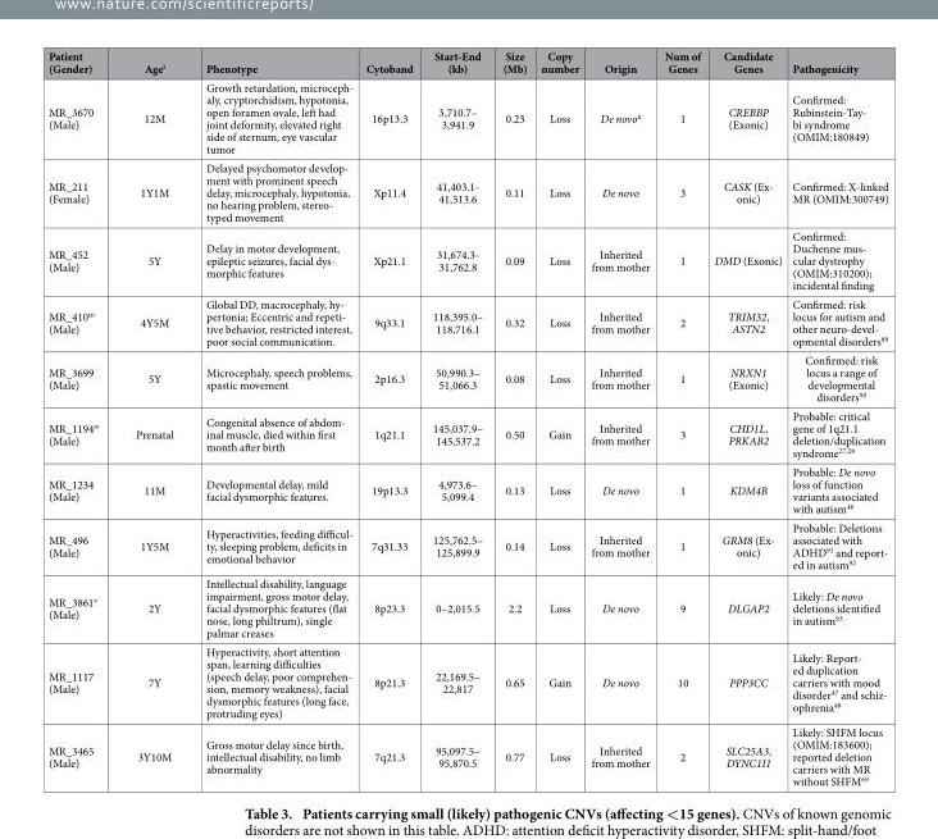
<table><thead><tr><td>Patient (Gender)</td><td>Age<sup>i</sup></td><td>Phenotype</td><td>Cytoband</td><td>Start-End (kb)</td><td>Size (Mb)</td><td>Copy number</td><td>Origin</td><td>Num of Genes</td><td>Candidate Genes</td><td>Pathogenicity</td></tr></thead><tbody><tr><td>MR_3670 (Male)</td><td>12M</td><td>Growth retardation, microceph- aly, cryptorchidism, hypotonia, open foramen ovale, left had joint deformity, elevated right side of sternum, eye vascular tumor</td><td>16p13.3</td><td>3,710.7– 3,941.9</td><td>0.23</td><td>Loss</td><td>De novo<sup>ii</sup></td><td>1</td><td>CREBBP (Exonic)</td><td>Confirmed: Rubinstein-Tay- bi syndrome (OMIM:180849)</td></tr><tr><td>MR_211 (Female)</td><td>1Y1M</td><td>Delayed psychomotor develop- ment with prominent speech delay, microcephaly, hypotonia, no hearing problem, stereo- typed movement</td><td>Xp11.4</td><td>41,403.1- 41,513.6</td><td>0.11</td><td>Loss</td><td>De novo</td><td>3</td><td>CASK (Ex- onic)</td><td>Confirmed: X-linked MR (OMIM:300749)</td></tr><tr><td>MR_452 (Male)</td><td>5Y</td><td>Delay in motor development, epileptic seizures, facial dys- morphic features</td><td>Xp21.1</td><td>31,674.3- 31,762.8</td><td>0.09</td><td>Loss</td><td>Inherited from mother</td><td>1</td><td>DMD (Exonic)</td><td>Confirmed: Duchenne mus- cular dystrophy (OMIM:310200); incidental finding</td></tr><tr><td>MR_410iii (Male)</td><td>4Y5M</td><td>Global DD, macrocephaly, hy- pertonia; Eccentric and repeti- tive behavior, restricted interest, poor social communication.</td><td>9q33.1</td><td>118,395.0– 118,716.1</td><td>0.32</td><td>Loss</td><td>Inherited from mother</td><td>2</td><td>TRIM32, ASTN2</td><td>Confirmed: risk locus for autism and other neuro-devel- opmental disorders89</td></tr><tr><td>MR_3699 (Male)</td><td>5Y</td><td>Microcephaly, speech problems, spastic movement</td><td>2p16.3</td><td>50,990.3– 51,066.3</td><td>0.08</td><td>Loss</td><td>Inherited from mother</td><td>1</td><td>NRXN1 (Exonic)</td><td>Confirmed: risk locus a range of developmental disorders<sup>90</sup></td></tr><tr><td>MR_1194<sup>iv</sup> (Male)</td><td>Prenatal</td><td>Congenital absence of abdom- inal muscle, died within first month after birth</td><td>1q21.1</td><td>145,037.9– 145,537.2</td><td>0.50</td><td>Gain</td><td>Inherited from mother</td><td>3</td><td>CHD1L, PRKAB2</td><td>Probable: critical gene of 1q21.1 deletion/duplication syndrome<sup>27</sup>,<sup>28</sup></td></tr><tr><td>MR_1234 (Male)</td><td>11M</td><td>Developmental delay, mild facial dysmorphic features.</td><td>19p13.3</td><td>4,973.6– 5,099.4</td><td>0.13</td><td>Loss</td><td>De novo</td><td>1</td><td>KDM4B</td><td>Probable: De novo loss of function variants associated with autism<sup>46</sup></td></tr><tr><td>MR_496 (Male)</td><td>1Y5M</td><td>Hyperactivities, feeding difficul- ty, sleeping problem, deficits in emotional behavior</td><td>7q31.33</td><td>125,762.5– 125,899.9</td><td>0.14</td><td>Loss</td><td>Inherited from mother</td><td>1</td><td>GRM8 (Ex- onic)</td><td>Probable: Deletions associated with ADHD91 and report- ed in autism92</td></tr><tr><td>MR_3861<sup>v</sup> (Male)</td><td>2Y</td><td>Intellectual disability, language impairment, gross motor delay, facial dysmorphic features (flat nose, long philtrum), single palmar creases</td><td>8p23.3</td><td>0–2,015.5</td><td>2.2</td><td>Loss</td><td>De novo</td><td>9</td><td>DLGAP2</td><td>Likely: De novo deletions identified in autism<sup>93</sup></td></tr><tr><td>MR_1117 (Male)</td><td>7Y</td><td>Hyperactivity, short attention span, learning difficulties (speech delay, poor comprehen- sion, memory weakness), facial dysmorphic features (long face, protruding eyes)</td><td>8p21.3</td><td>22,169.5– 22,817</td><td>0.65</td><td>Gain</td><td>De novo</td><td>10</td><td>PPP3CC</td><td>Likely: Report- ed duplication carriers with mood disorder47 and schiz- ophrenia48</td></tr><tr><td>MR_3465 (Male)</td><td>3Y10M</td><td>Gross motor delay since birth, intellectual disability, no limb abnormality</td><td>7q21.3</td><td>95,097.5– 95,870.5</td><td>0.77</td><td>Loss</td><td>Inherited from mother</td><td>2</td><td>SLC25A3, DYNC1I1</td><td>Likely: SHFM locus (OMIM:183600); reported deletion carriers with MR without SHFM<sup>69</sup></td></tr></tbody></table>